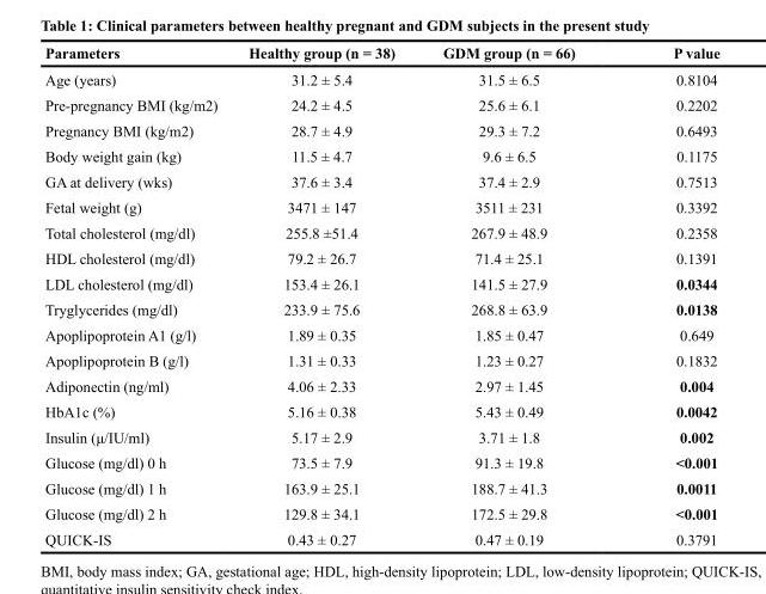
<table><thead><tr><td>Parameters</td><td>Healthy group (n = 38)</td><td>GDM group (n = 66)</td><td>P value</td></tr></thead><tbody><tr><td>Age (years)</td><td>31.2 ± 5.4</td><td>31.5 ± 6.5</td><td>0.8104</td></tr><tr><td>Pre-pregnancy BMI (kg/m2)</td><td>24.2 ± 4.5</td><td>25.6 ± 6.1</td><td>0.2202</td></tr><tr><td>Pregnancy BMI (kg/m2)</td><td>28.7 ± 4.9</td><td>29.3 ± 7.2</td><td>0.6493</td></tr><tr><td>Body weight gain (kg)</td><td>11.5 ± 4.7</td><td>9.6 ± 6.5</td><td>0.1175</td></tr><tr><td>GA at delivery (wks)</td><td>37.6 ± 3.4</td><td>37.4 ± 2.9</td><td>0.7513</td></tr><tr><td>Fetal weight (g)</td><td>3471 ± 147</td><td>3511 ± 231</td><td>0.3392</td></tr><tr><td>Total cholesterol (mg/dl)</td><td>255.8 ±51.4</td><td>267.9 ± 48.9</td><td>0.2358</td></tr><tr><td>HDL cholesterol (mg/dl)</td><td>79.2 ± 26.7</td><td>71.4 ± 25.1</td><td>0.1391</td></tr><tr><td>LDL cholesterol (mg/dl)</td><td>153.4 ± 26.1</td><td>141.5 ± 27.9</td><td>0.0344</td></tr><tr><td>Tryglycerides (mg/dl)</td><td>233.9 ± 75.6</td><td>268.8 ± 63.9</td><td>0.0138</td></tr><tr><td>Apoplipoprotein A1 (g/l)</td><td>1.89 ± 0.35</td><td>1.85 ± 0.47</td><td>0.649</td></tr><tr><td>Apoplipoprotein B (g/l)</td><td>1.31 ± 0.33</td><td>1.23 ± 0.27</td><td>0.1832</td></tr><tr><td>Adiponectin (ng/ml)</td><td>4.06 ± 2.33</td><td>2.97 ± 1.45</td><td>0.004</td></tr><tr><td>HbA1c (%)</td><td>5.16 ± 0.38</td><td>5.43 ± 0.49</td><td>0.0042</td></tr><tr><td>Insulin (μ/IU/ml)</td><td>5.17 ± 2.9</td><td>3.71 ± 1.8</td><td>0.002</td></tr><tr><td>Glucose (mg/dl) 0 h</td><td>73.5 ± 7.9</td><td>91.3 ± 19.8</td><td>&lt;0.001</td></tr><tr><td>Glucose (mg/dl) 1 h</td><td>163.9 ± 25.1</td><td>188.7 ± 41.3</td><td>0.0011</td></tr><tr><td>Glucose (mg/dl) 2 h</td><td>129.8 ± 34.1</td><td>172.5 ± 29.8</td><td>&lt;0.001</td></tr><tr><td>QUICK-IS</td><td>0.43 ± 0.27</td><td>0.47 ± 0.19</td><td>0.3791</td></tr></tbody></table>